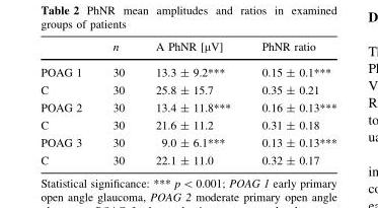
<table><thead><tr><td></td><td>n</td><td>A PhNR [μV]</td><td>PhNR ratio</td></tr></thead><tbody><tr><td>POAG 1</td><td>30</td><td>13.3 ± 9.2***</td><td>0.15 ± 0.1***</td></tr><tr><td>C</td><td>30</td><td>25.8 ± 15.7</td><td>0.35 ± 0.21</td></tr><tr><td>POAG 2</td><td>30</td><td>13.4 ± 11.8***</td><td>0.16 ± 0.13***</td></tr><tr><td>C</td><td>30</td><td>21.6 ± 11.2</td><td>0.31 ± 0.18</td></tr><tr><td>POAG 3</td><td>30</td><td>9.0 ± 6.1***</td><td>0.13 ± 0.13***</td></tr><tr><td>C</td><td>30</td><td>22.1 ± 11.0</td><td>0.32 ± 0.17</td></tr></tbody></table>